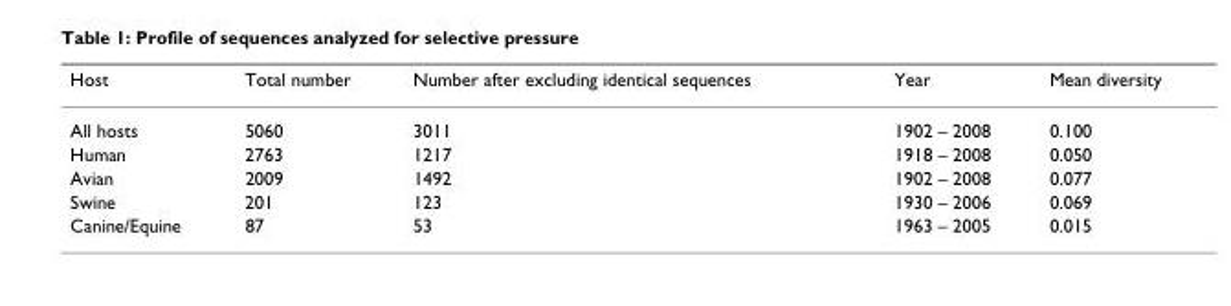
<table><thead><tr><td>Host</td><td>Total number</td><td>Number after excluding identical sequences</td><td>Year</td><td>Mean diversity</td></tr></thead><tbody><tr><td>All hosts</td><td>5060</td><td>3011</td><td>1902 – 2008</td><td>0.100</td></tr><tr><td>Human</td><td>2763</td><td>1217</td><td>1918 – 2008</td><td>0.050</td></tr><tr><td>Avian</td><td>2009</td><td>1492</td><td>1902 – 2008</td><td>0.077</td></tr><tr><td>Swine</td><td>201</td><td>123</td><td>1930 – 2006</td><td>0.069</td></tr><tr><td>Canine/Equine</td><td>87</td><td>53</td><td>1963 – 2005</td><td>0.015</td></tr></tbody></table>